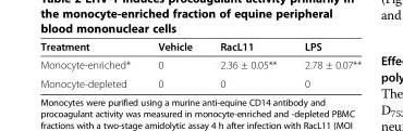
<table><thead><tr><td>Treatment</td><td>Vehicle</td><td>RacL11</td><td>LPS</td></tr></thead><tbody><tr><td>Monocyte-enriched*</td><td>0</td><td>2.36 ± 0.05**</td><td>2.78 ± 0.07**</td></tr><tr><td>Monocyte-depleted</td><td>0</td><td>0</td><td>0</td></tr></tbody></table>